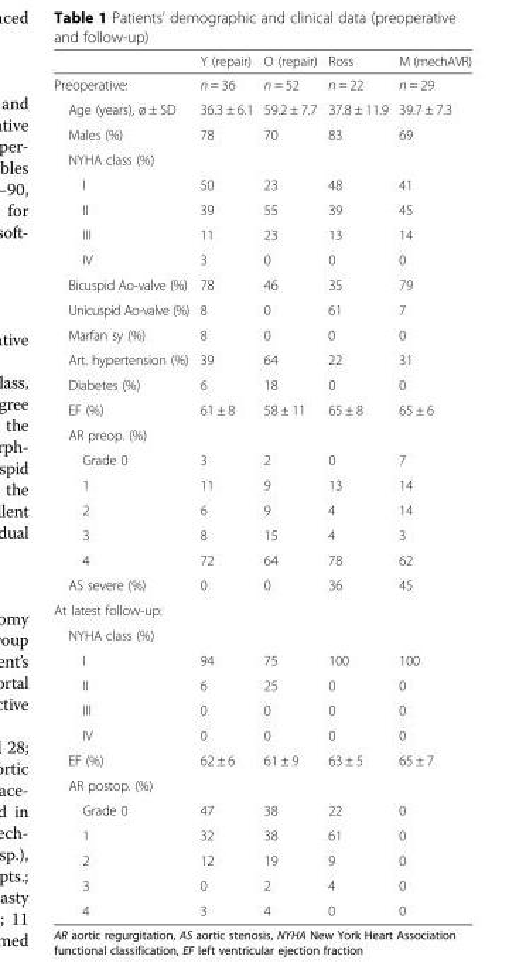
<table><thead><tr><td></td><td>Y (repair)</td><td>O (repair)</td><td>Ross</td><td>M (mechAVR)</td></tr></thead><tbody><tr><td>Preoperative:</td><td>n = 36</td><td>n = 52</td><td>n = 22</td><td>n = 29</td></tr><tr><td>Age (years), ø ± SD</td><td>36.3 ± 6.1</td><td>59.2 ± 7.7</td><td>37.8 ± 11.9</td><td>39.7 ± 7.3</td></tr><tr><td>Males (%)</td><td>78</td><td>70</td><td>83</td><td>69</td></tr><tr><td colspan="5">NYHA class (%)</td></tr><tr><td>I</td><td>50</td><td>23</td><td>48</td><td>41</td></tr><tr><td>II</td><td>39</td><td>55</td><td>39</td><td>45</td></tr><tr><td>III</td><td>11</td><td>23</td><td>13</td><td>14</td></tr><tr><td>IV</td><td>3</td><td>0</td><td>0</td><td>0</td></tr><tr><td>Bicuspid Ao-valve (%)</td><td>78</td><td>46</td><td>35</td><td>79</td></tr><tr><td>Unicuspid Ao-valve (%)</td><td>8</td><td>0</td><td>61</td><td>7</td></tr><tr><td>Marfan sy (%)</td><td>8</td><td>0</td><td>0</td><td>0</td></tr><tr><td>Art. hypertension (%)</td><td>39</td><td>64</td><td>22</td><td>31</td></tr><tr><td>Diabetes (%)</td><td>6</td><td>18</td><td>0</td><td>0</td></tr><tr><td>EF (%)</td><td>61 ± 8</td><td>58 ± 11</td><td>65 ± 8</td><td>65 ± 6</td></tr><tr><td colspan="5">AR preop. (%)</td></tr><tr><td>Grade 0</td><td>3</td><td>2</td><td>0</td><td>7</td></tr><tr><td>1</td><td>11</td><td>9</td><td>13</td><td>14</td></tr><tr><td>2</td><td>6</td><td>9</td><td>4</td><td>14</td></tr><tr><td>3</td><td>8</td><td>15</td><td>4</td><td>3</td></tr><tr><td>4</td><td>72</td><td>64</td><td>78</td><td>62</td></tr><tr><td>AS severe (%)</td><td>0</td><td>0</td><td>36</td><td>45</td></tr><tr><td colspan="5">At latest follow-up:</td></tr><tr><td colspan="5">NYHA class (%)</td></tr><tr><td>I</td><td>94</td><td>75</td><td>100</td><td>100</td></tr><tr><td>II</td><td>6</td><td>25</td><td>0</td><td>0</td></tr><tr><td>III</td><td>0</td><td>0</td><td>0</td><td>0</td></tr><tr><td>IV</td><td>0</td><td>0</td><td>0</td><td>0</td></tr><tr><td>EF (%)</td><td>62 ± 6</td><td>61 ± 9</td><td>63 ± 5</td><td>65 ± 7</td></tr><tr><td colspan="5">AR postop. (%)</td></tr><tr><td>Grade 0</td><td>47</td><td>38</td><td>22</td><td>0</td></tr><tr><td>1</td><td>32</td><td>38</td><td>61</td><td>0</td></tr><tr><td>2</td><td>12</td><td>19</td><td>9</td><td>0</td></tr><tr><td>3</td><td>0</td><td>2</td><td>4</td><td>0</td></tr><tr><td>4</td><td>3</td><td>4</td><td>0</td><td>0</td></tr></tbody></table>